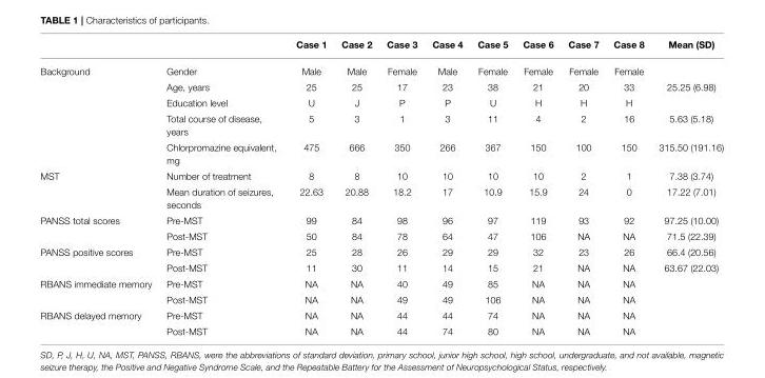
<table><thead><tr><td></td><td></td><td>Case 1</td><td>Case 2</td><td>Case 3</td><td>Case 4</td><td>Case 5</td><td>Case 6</td><td>Case 7</td><td>Case 8</td><td>Mean (SD)</td></tr></thead><tbody><tr><td rowspan="5">Background</td><td>Gender</td><td>Male</td><td>Male</td><td>Female</td><td>Male</td><td>Female</td><td>Female</td><td>Female</td><td>Female</td><td></td></tr><tr><td>Age, years</td><td>25</td><td>25</td><td>17</td><td>23</td><td>38</td><td>21</td><td>20</td><td>33</td><td>25.25 (6.98)</td></tr><tr><td>Education level</td><td>U</td><td>J</td><td>P</td><td>P</td><td>U</td><td>H</td><td>H</td><td>H</td><td></td></tr><tr><td>Total course of disease, years</td><td>5</td><td>3</td><td>1</td><td>3</td><td>11</td><td>4</td><td>2</td><td>16</td><td>5.63 (5.18)</td></tr><tr><td>Chlorpromazine equivalent, mg</td><td>475</td><td>666</td><td>350</td><td>266</td><td>367</td><td>150</td><td>100</td><td>150</td><td>315.50 (191.16)</td></tr><tr><td rowspan="2">MST</td><td>Number of treatment</td><td>8</td><td>8</td><td>10</td><td>10</td><td>10</td><td>10</td><td>2</td><td>1</td><td>7.38 (3.74)</td></tr><tr><td>Mean duration of seizures, seconds</td><td>22.63</td><td>20.88</td><td>18.2</td><td>17</td><td>10.9</td><td>15.9</td><td>24</td><td>0</td><td>17.22 (7.01)</td></tr><tr><td rowspan="2">PANSS total scores</td><td>Pre-MST</td><td>99</td><td>84</td><td>98</td><td>96</td><td>97</td><td>119</td><td>93</td><td>92</td><td>97.25 (10.00)</td></tr><tr><td>Post-MST</td><td>50</td><td>84</td><td>78</td><td>64</td><td>47</td><td>106</td><td>NA</td><td>NA</td><td>71.5 (22.39)</td></tr><tr><td rowspan="2">PANSS positive scores</td><td>Pre-MST</td><td>25</td><td>28</td><td>26</td><td>29</td><td>29</td><td>32</td><td>23</td><td>26</td><td>66.4 (20.56)</td></tr><tr><td>Post-MST</td><td>11</td><td>30</td><td>11</td><td>14</td><td>15</td><td>21</td><td>NA</td><td>NA</td><td>63.67 (22.03)</td></tr><tr><td rowspan="2">RBANS immediate memory</td><td>Pre-MST</td><td>NA</td><td>NA</td><td>40</td><td>49</td><td>85</td><td>NA</td><td>NA</td><td>NA</td><td></td></tr><tr><td>Post-MST</td><td>NA</td><td>NA</td><td>49</td><td>49</td><td>106</td><td>NA</td><td>NA</td><td>NA</td><td></td></tr><tr><td rowspan="2">RBANS delayed memory</td><td>Pre-MST</td><td>NA</td><td>NA</td><td>44</td><td>44</td><td>74</td><td>NA</td><td>NA</td><td>NA</td><td></td></tr><tr><td>Post-MST</td><td>NA</td><td>NA</td><td>44</td><td>74</td><td>80</td><td>NA</td><td>NA</td><td>NA</td><td></td></tr></tbody></table>